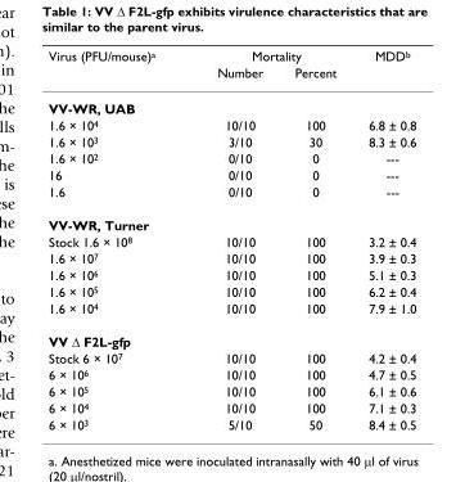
<table><thead><tr><td rowspan="2">Virus (PFU/mouse)<sup>a</sup></td><td colspan="2">Mortality</td><td rowspan="2">MDD<sup>b</sup></td></tr><tr><td>Number</td><td>Percent</td></tr></thead><tbody><tr><td colspan="4">VV-WR, UAB</td></tr><tr><td>1.6 × 10<sup>4</sup></td><td>10/10</td><td>100</td><td>6.8 ± 0.8</td></tr><tr><td>1.6 × 10<sup>3</sup></td><td>3/10</td><td>30</td><td>8.3 ± 0.6</td></tr><tr><td>1.6 × 10<sup>2</sup></td><td>0/10</td><td>0</td><td>---</td></tr><tr><td>16</td><td>0/10</td><td>0</td><td>---</td></tr><tr><td>1.6</td><td>0/10</td><td>0</td><td>---</td></tr><tr><td colspan="4">VV-WR, Turner</td></tr><tr><td>Stock 1.6 × 10<sup>8</sup></td><td>10/10</td><td>100</td><td>3.2 ± 0.4</td></tr><tr><td>1.6 × 10<sup>7</sup></td><td>10/10</td><td>100</td><td>3.9 ± 0.3</td></tr><tr><td>1.6 × 10<sup>6</sup></td><td>10/10</td><td>100</td><td>5.1 ± 0.3</td></tr><tr><td>1.6 × 10<sup>5</sup></td><td>10/10</td><td>100</td><td>6.2 ± 0.4</td></tr><tr><td>1.6 × 10<sup>4</sup></td><td>10/10</td><td>100</td><td>7.9 ± 1.0</td></tr><tr><td colspan="4">VV Δ F2L-gfp</td></tr><tr><td>Stock 6 × 10<sup>7</sup></td><td>10/10</td><td>100</td><td>4.2 ± 0.4</td></tr><tr><td>6 × 10<sup>6</sup></td><td>10/10</td><td>100</td><td>4.7 ± 0.5</td></tr><tr><td>6 × 10<sup>5</sup></td><td>10/10</td><td>100</td><td>6.1 ± 0.6</td></tr><tr><td>6 × 10<sup>4</sup></td><td>10/10</td><td>100</td><td>7.1 ± 0.3</td></tr><tr><td>6 × 10<sup>3</sup></td><td>5/10</td><td>50</td><td>8.4 ± 0.5</td></tr></tbody></table>